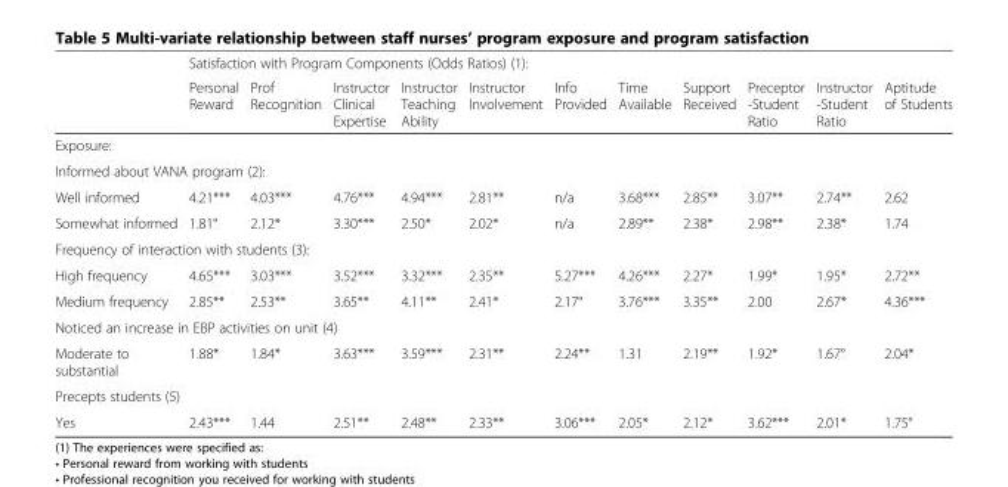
<table><thead><tr><td rowspan="2"></td><td colspan="11">Satisfaction with Program Components (Odds Ratios) (1):</td></tr><tr><td>Personal Reward</td><td>Prof Recognition</td><td>Instructor Clinical Expertise</td><td>Instructor Teaching Ability</td><td>Instructor Involvement</td><td>Info Provided</td><td>Time Available</td><td>Support Received</td><td>Preceptor -Student Ratio</td><td>Instructor -Student Ratio</td><td>Aptitude of Students</td></tr></thead><tbody><tr><td colspan="12">Exposure:</td></tr><tr><td colspan="12">Informed about VANA program (2):</td></tr><tr><td>Well informed</td><td>4.21***</td><td>4.03***</td><td>4.76***</td><td>4.94***</td><td>2.81**</td><td>n/a</td><td>3.68***</td><td>2.85**</td><td>3.07**</td><td>2.74**</td><td>2.62</td></tr><tr><td>Somewhat informed</td><td>1.81°</td><td>2.12*</td><td>3.30***</td><td>2.50*</td><td>2.02*</td><td>n/a</td><td>2.89**</td><td>2.38*</td><td>2.98**</td><td>2.38*</td><td>1.74</td></tr><tr><td colspan="12">Frequency of interaction with students (3):</td></tr><tr><td>High frequency</td><td>4.65***</td><td>3.03***</td><td>3.52***</td><td>3.32***</td><td>2.35**</td><td>5.27***</td><td>4.26***</td><td>2.27*</td><td>1.99*</td><td>1.95*</td><td>2.72**</td></tr><tr><td>Medium frequency</td><td>2.85**</td><td>2.53**</td><td>3.65**</td><td>4.11**</td><td>2.41*</td><td>2.17°</td><td>3.76***</td><td>3.35**</td><td>2.00</td><td>2.67*</td><td>4.36***</td></tr><tr><td colspan="12">Noticed an increase in EBP activities on unit (4)</td></tr><tr><td>Moderate to substantial</td><td>1.88*</td><td>1.84*</td><td>3.63***</td><td>3.59***</td><td>2.31**</td><td>2.24**</td><td>1.31</td><td>2.19**</td><td>1.92*</td><td>1.67°</td><td>2.04*</td></tr><tr><td colspan="12">Precepts students (5)</td></tr><tr><td>Yes</td><td>2.43***</td><td>1.44</td><td>2.51**</td><td>2.48**</td><td>2.33**</td><td>3.06***</td><td>2.05*</td><td>2.12*</td><td>3.62***</td><td>2.01*</td><td>1.75°</td></tr></tbody></table>